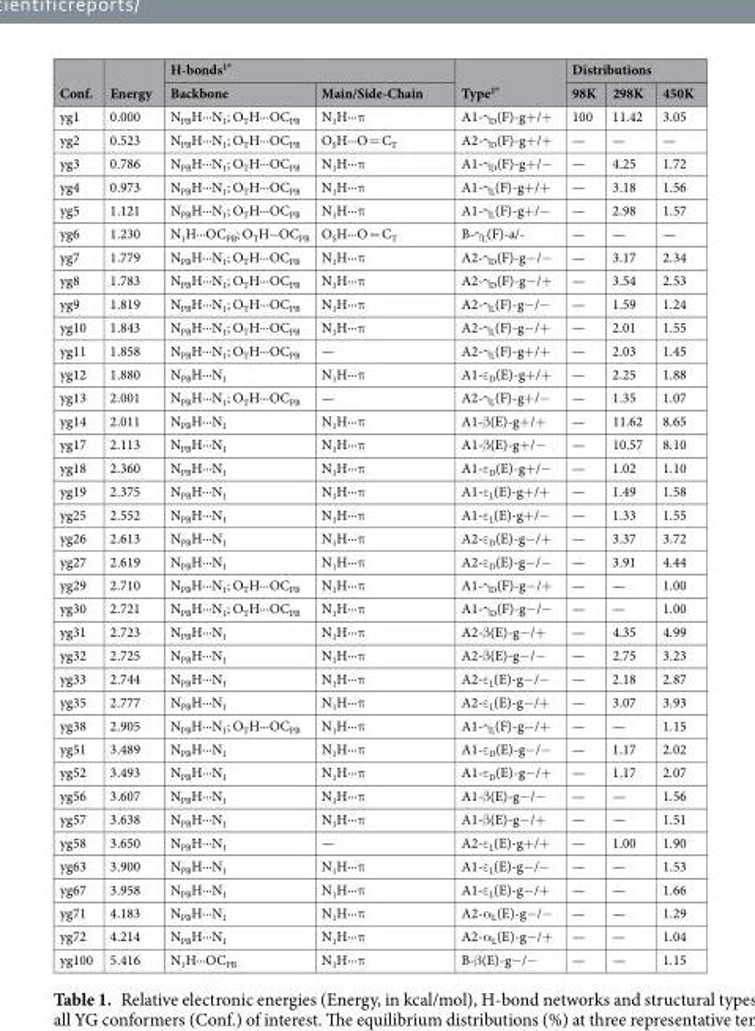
<table><thead><tr><td rowspan="2">Conf.</td><td rowspan="2">Energy</td><td colspan="2">H-bonds<sup>1*</sup></td><td rowspan="2">Type<sup>2*</sup></td><td colspan="3">Distributions</td></tr><tr><td>Backbone</td><td>Main/Side-Chain</td><td>98K</td><td>298K</td><td>450K</td></tr></thead><tbody><tr><td>yg1</td><td>0.000</td><td>N<sub>PB</sub>H···N<sub>1</sub>; O<sub>T</sub>H···OC<sub>PB</sub></td><td>N<sub>1</sub>H···π</td><td>A1-γ<sub>D</sub>(F)-g+/+</td><td>100</td><td>11.42</td><td>3.05</td></tr><tr><td>yg2</td><td>0.523</td><td>N<sub>PB</sub>H···N<sub>1</sub>; O<sub>T</sub>H···OC<sub>PB</sub></td><td>O<sub>S</sub>H···O = C<sub>T</sub></td><td>A2-γ<sub>D</sub>(F)-g+/+</td><td>—</td><td>—</td><td>—</td></tr><tr><td>yg3</td><td>0.786</td><td>N<sub>PB</sub>H···N<sub>1</sub>; O<sub>T</sub>H···OC<sub>PB</sub></td><td>N<sub>1</sub>H···π</td><td>A1-γ<sub>D</sub>(F)-g+/−</td><td>—</td><td>4.25</td><td>1.72</td></tr><tr><td>yg4</td><td>0.973</td><td>N<sub>PB</sub>H···N<sub>1</sub>; O<sub>T</sub>H···OC<sub>PB</sub></td><td>N<sub>1</sub>H···π</td><td>A1-γ<sub>L</sub>(F)-g+/+</td><td>—</td><td>3.18</td><td>1.56</td></tr><tr><td>yg5</td><td>1.121</td><td>N<sub>PB</sub>H···N<sub>1</sub>; O<sub>T</sub>H···OC<sub>PB</sub></td><td>N<sub>1</sub>H···π</td><td>A1-γ<sub>L</sub>(F)-g+/−</td><td>—</td><td>2.98</td><td>1.57</td></tr><tr><td>yg6</td><td>1.230</td><td>N<sub>1</sub>H···OC<sub>PB</sub>; O<sub>T</sub>H···OC<sub>PB</sub></td><td>O<sub>S</sub>H···O = C<sub>T</sub></td><td>B-γ<sub>L</sub>(F)-a/-</td><td>—</td><td>—</td><td>—</td></tr><tr><td>yg7</td><td>1.779</td><td>N<sub>PB</sub>H···N<sub>1</sub>; O<sub>T</sub>H···OC<sub>PB</sub></td><td>N<sub>1</sub>H···π</td><td>A2-γ<sub>D</sub>(F)-g−/−</td><td>—</td><td>3.17</td><td>2.34</td></tr><tr><td>yg8</td><td>1.783</td><td>N<sub>PB</sub>H···N<sub>1</sub>; O<sub>T</sub>H···OC<sub>PB</sub></td><td>N<sub>1</sub>H···π</td><td>A2-γ<sub>D</sub>(F)-g−/+</td><td>—</td><td>3.54</td><td>2.53</td></tr><tr><td>yg9</td><td>1.819</td><td>N<sub>PB</sub>H···N<sub>1</sub>; O<sub>T</sub>H···OC<sub>PB</sub></td><td>N<sub>1</sub>H···π</td><td>A2-γ<sub>L</sub>(F)-g−/−</td><td>—</td><td>1.59</td><td>1.24</td></tr><tr><td>yg10</td><td>1.843</td><td>N<sub>PB</sub>H···N<sub>1</sub>; O<sub>T</sub>H···OC<sub>PB</sub></td><td>N<sub>1</sub>H···π</td><td>A2-γ<sub>L</sub>(F)-g−/+</td><td>—</td><td>2.01</td><td>1.55</td></tr><tr><td>yg11</td><td>1.858</td><td>N<sub>PB</sub>H···N<sub>1</sub>; O<sub>T</sub>H···OC<sub>PB</sub></td><td>—</td><td>A2-γ<sub>L</sub>(F)-g+/+</td><td>—</td><td>2.03</td><td>1.45</td></tr><tr><td>yg12</td><td>1.880</td><td>N<sub>PB</sub>H···N<sub>1</sub></td><td>N<sub>1</sub>H···π</td><td>A1-ε<sub>D</sub>(E)-g+/+</td><td>—</td><td>2.25</td><td>1.88</td></tr><tr><td>yg13</td><td>2.001</td><td>N<sub>PB</sub>H···N<sub>1</sub>; O<sub>T</sub>H···OC<sub>PB</sub></td><td>—</td><td>A2-γ<sub>L</sub>(F)-g+/−</td><td>—</td><td>1.35</td><td>1.07</td></tr><tr><td>yg14</td><td>2.011</td><td>N<sub>PB</sub>H···N<sub>1</sub></td><td>N<sub>1</sub>H···π</td><td>A1-β(E)-g+/+</td><td>—</td><td>11.62</td><td>8.65</td></tr><tr><td>yg17</td><td>2.113</td><td>N<sub>PB</sub>H···N<sub>1</sub></td><td>N<sub>1</sub>H···π</td><td>A1-β(E)-g+/−</td><td>—</td><td>10.57</td><td>8.10</td></tr><tr><td>yg18</td><td>2.360</td><td>N<sub>PB</sub>H···N<sub>1</sub></td><td>N<sub>1</sub>H···π</td><td>A1-ε<sub>D</sub>(E)-g+/−</td><td>—</td><td>1.02</td><td>1.10</td></tr><tr><td>yg19</td><td>2.375</td><td>N<sub>PB</sub>H···N<sub>1</sub></td><td>N<sub>1</sub>H···π</td><td>A1-ε<sub>L</sub>(E)-g+/+</td><td>—</td><td>1.49</td><td>1.58</td></tr><tr><td>yg25</td><td>2.552</td><td>N<sub>PB</sub>H···N<sub>1</sub></td><td>N<sub>1</sub>H···π</td><td>A1-ε<sub>L</sub>(E)-g+/−</td><td>—</td><td>1.33</td><td>1.55</td></tr><tr><td>yg26</td><td>2.613</td><td>N<sub>PB</sub>H···N<sub>1</sub></td><td>N<sub>1</sub>H···π</td><td>A2-ε<sub>D</sub>(E)-g−/+</td><td>—</td><td>3.37</td><td>3.72</td></tr><tr><td>yg27</td><td>2.619</td><td>N<sub>PB</sub>H···N<sub>1</sub></td><td>N<sub>1</sub>H···π</td><td>A2-ε<sub>D</sub>(E)-g−/−</td><td>—</td><td>3.91</td><td>4.44</td></tr><tr><td>yg29</td><td>2.710</td><td>N<sub>PB</sub>H···N<sub>1</sub>; O<sub>T</sub>H···OC<sub>PB</sub></td><td>N<sub>1</sub>H···π</td><td>A1-γ<sub>D</sub>(F)-g−/+</td><td>—</td><td>—</td><td>1.00</td></tr><tr><td>yg30</td><td>2.721</td><td>N<sub>PB</sub>H···N<sub>1</sub>; O<sub>T</sub>H···OC<sub>PB</sub></td><td>N<sub>1</sub>H···π</td><td>A1-γ<sub>D</sub>(F)-g−/−</td><td>—</td><td>—</td><td>1.00</td></tr><tr><td>yg31</td><td>2.723</td><td>N<sub>PB</sub>H···N<sub>1</sub></td><td>N<sub>1</sub>H···π</td><td>A2-β(E)-g−/+</td><td>—</td><td>4.35</td><td>4.99</td></tr><tr><td>yg32</td><td>2.725</td><td>N<sub>PB</sub>H···N<sub>1</sub></td><td>N<sub>1</sub>H···π</td><td>A2-β(E)-g−/−</td><td>—</td><td>2.75</td><td>3.23</td></tr><tr><td>yg33</td><td>2.744</td><td>N<sub>PB</sub>H···N<sub>1</sub></td><td>N<sub>1</sub>H···π</td><td>A2-ε<sub>L</sub>(E)-g−/−</td><td>—</td><td>2.18</td><td>2.87</td></tr><tr><td>yg35</td><td>2.777</td><td>N<sub>PB</sub>H···N<sub>1</sub></td><td>N<sub>1</sub>H···π</td><td>A2-ε<sub>L</sub>(E)-g−/+</td><td>—</td><td>3.07</td><td>3.93</td></tr><tr><td>yg38</td><td>2.905</td><td>N<sub>PB</sub>H···N<sub>1</sub>; O<sub>T</sub>H···OC<sub>PB</sub></td><td>N<sub>1</sub>H···π</td><td>A1-γ<sub>L</sub>(F)-g−/+</td><td>—</td><td>—</td><td>1.15</td></tr><tr><td>yg51</td><td>3.489</td><td>N<sub>PB</sub>H···N<sub>1</sub></td><td>N<sub>1</sub>H···π</td><td>A1-ε<sub>D</sub>(E)-g−/−</td><td>—</td><td>1.17</td><td>2.02</td></tr><tr><td>yg52</td><td>3.493</td><td>N<sub>PB</sub>H···N<sub>1</sub></td><td>N<sub>1</sub>H···π</td><td>A1-ε<sub>D</sub>(E)-g−/+</td><td>—</td><td>1.17</td><td>2.07</td></tr><tr><td>yg56</td><td>3.607</td><td>N<sub>PB</sub>H···N<sub>1</sub></td><td>N<sub>1</sub>H···π</td><td>A1-β(E)-g−/−</td><td>—</td><td>—</td><td>1.56</td></tr><tr><td>yg57</td><td>3.638</td><td>N<sub>PB</sub>H···N<sub>1</sub></td><td>N<sub>1</sub>H···π</td><td>A1-β(E)-g−/+</td><td>—</td><td>—</td><td>1.51</td></tr><tr><td>yg58</td><td>3.650</td><td>N<sub>PB</sub>H···N<sub>1</sub></td><td>—</td><td>A2-ε<sub>L</sub>(E)-g+/+</td><td>—</td><td>1.00</td><td>1.90</td></tr><tr><td>yg63</td><td>3.900</td><td>N<sub>PB</sub>H···N<sub>1</sub></td><td>N<sub>1</sub>H···π</td><td>A1-ε<sub>L</sub>(E)-g−/−</td><td>—</td><td>—</td><td>1.53</td></tr><tr><td>yg67</td><td>3.958</td><td>N<sub>PB</sub>H···N<sub>1</sub></td><td>N<sub>1</sub>H···π</td><td>A1-ε<sub>L</sub>(E)-g−/+</td><td>—</td><td>—</td><td>1.66</td></tr><tr><td>yg71</td><td>4.183</td><td>N<sub>PB</sub>H···N<sub>1</sub></td><td>N<sub>1</sub>H···π</td><td>A2-α<sub>L</sub>(E)-g−/−</td><td>—</td><td>—</td><td>1.29</td></tr><tr><td>yg72</td><td>4.214</td><td>N<sub>PB</sub>H···N<sub>1</sub></td><td>N<sub>1</sub>H···π</td><td>A2-α<sub>L</sub>(E)-g−/+</td><td>—</td><td>—</td><td>1.04</td></tr><tr><td>yg100</td><td>5.416</td><td>N<sub>1</sub>H···OC<sub>PB</sub></td><td>N<sub>1</sub>H···π</td><td>B-β(E)-g−/−</td><td>—</td><td>—</td><td>1.15</td></tr></tbody></table>